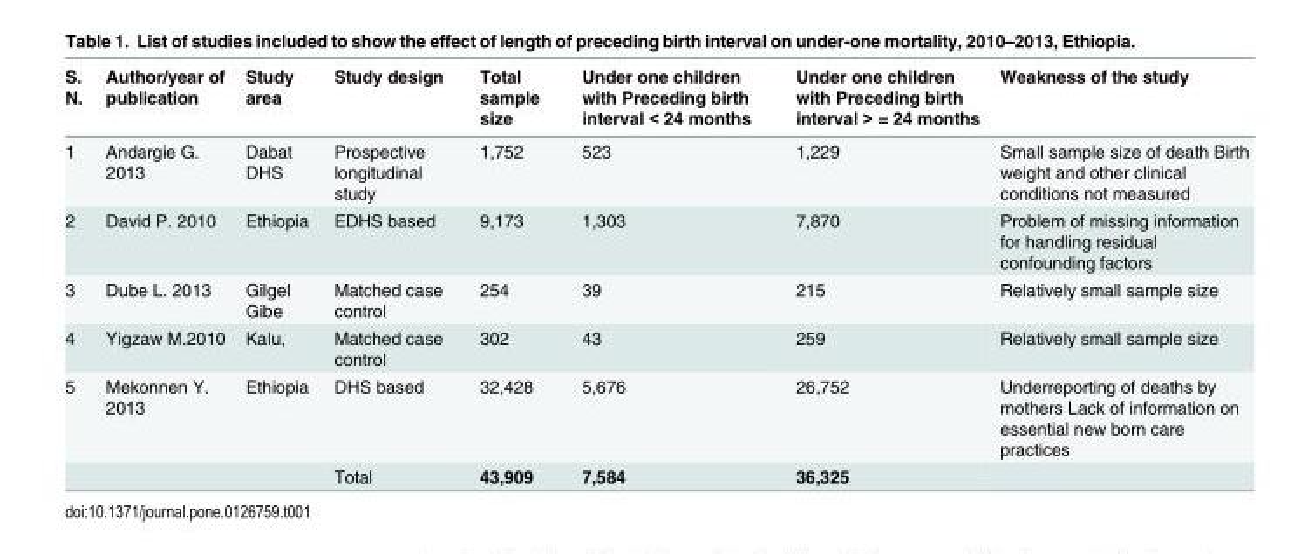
<table><thead><tr><td>S. N.</td><td>Author/year of publication</td><td>Study area</td><td>Study design</td><td>Total sample size</td><td>Under one children with Preceding birth interval &lt; 24 months</td><td>Under one children with Preceding birth interval &gt; = 24 months</td><td>Weakness of the study</td></tr></thead><tbody><tr><td>1</td><td>Andargie G. 2013</td><td>Dabat DHS</td><td>Prospective longitudinal study</td><td>1,752</td><td>523</td><td>1,229</td><td>Small sample size of death Birth weight and other clinical conditions not measured</td></tr><tr><td>2</td><td>David P. 2010</td><td>Ethiopia</td><td>EDHS based</td><td>9,173</td><td>1,303</td><td>7,870</td><td>Problem of missing information for handling residual confounding factors</td></tr><tr><td>3</td><td>Dube L. 2013</td><td>Gilgel Gibe</td><td>Matched case control</td><td>254</td><td>39</td><td>215</td><td>Relatively small sample size</td></tr><tr><td>4</td><td>Yigzaw M.2010</td><td>Kalu,</td><td>Matched case control</td><td>302</td><td>43</td><td>259</td><td>Relatively small sample size</td></tr><tr><td>5</td><td>Mekonnen Y. 2013</td><td>Ethiopia</td><td>DHS based</td><td>32,428</td><td>5,676</td><td>26,752</td><td>Underreporting of deaths by mothers Lack of information on essential new born care practices</td></tr><tr><td colspan="3"></td><td>Total</td><td>43,909</td><td>7,584</td><td>36,325</td><td></td></tr></tbody></table>